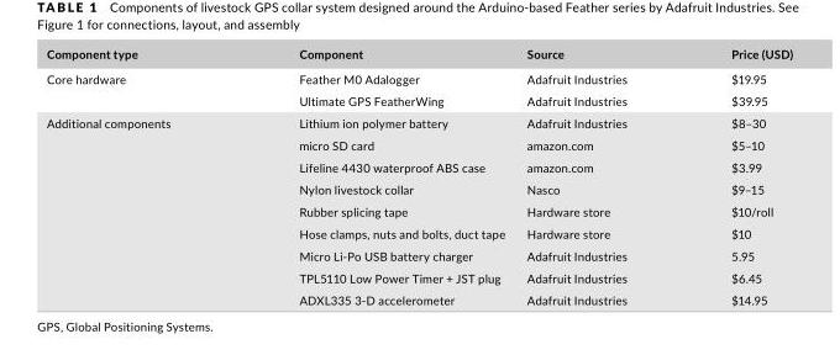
<table><thead><tr><td>Component type</td><td>Component</td><td>Source</td><td>Price (USD)</td></tr></thead><tbody><tr><td rowspan="2">Core hardware</td><td>Feather M0 Adalogger</td><td>Adafruit Industries</td><td>$19.95</td></tr><tr><td>Ultimate GPS FeatherWing</td><td>Adafruit Industries</td><td>$39.95</td></tr><tr><td rowspan="9">Additional components</td><td>Lithium ion polymer battery</td><td>Adafruit Industries</td><td>$8–30</td></tr><tr><td>micro SD card</td><td>amazon.com</td><td>$5–10</td></tr><tr><td>Lifeline 4430 waterproof ABS case</td><td>amazon.com</td><td>$3.99</td></tr><tr><td>Nylon livestock collar</td><td>Nasco</td><td>$9–15</td></tr><tr><td>Rubber splicing tape</td><td>Hardware store</td><td>$10/roll</td></tr><tr><td>Hose clamps, nuts and bolts, duct tape</td><td>Hardware store</td><td>$10</td></tr><tr><td>Micro Li- Po USB battery charger</td><td>Adafruit Industries</td><td>5.95</td></tr><tr><td>TPL5110 Low Power Timer + JST plug</td><td>Adafruit Industries</td><td>$6.45</td></tr><tr><td>ADXL335 3- D accelerometer</td><td>Adafruit Industries</td><td>$14.95</td></tr></tbody></table>